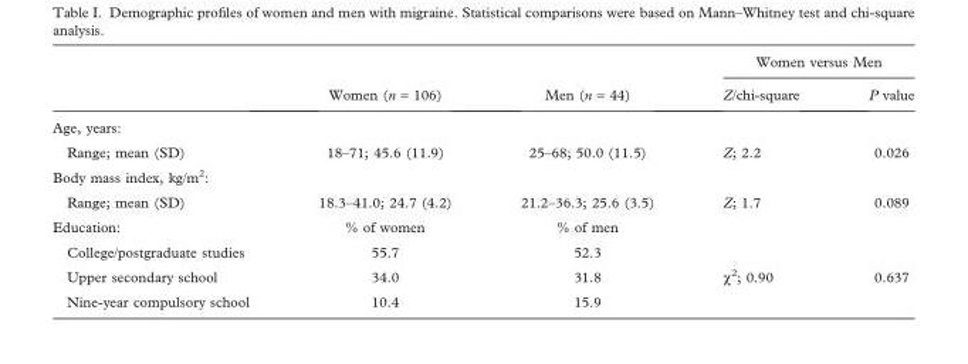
<table><thead><tr><td rowspan="2"></td><td rowspan="2">Women (n = 106)</td><td rowspan="2">Men (n = 44)</td><td colspan="2">Women versus Men</td></tr><tr><td>Z/chi-square</td><td>P value</td></tr></thead><tbody><tr><td colspan="5">Age, years:</td></tr><tr><td>Range; mean (SD)</td><td>18–71; 45.6 (11.9)</td><td>25–68; 50.0 (11.5)</td><td>Z; 2.2</td><td>0.026</td></tr><tr><td colspan="5">Body mass index, kg/m<sup>2</sup>:</td></tr><tr><td>Range; mean (SD)</td><td>18.3–41.0; 24.7 (4.2)</td><td>21.2–36.3; 25.6 (3.5)</td><td>Z; 1.7</td><td>0.089</td></tr><tr><td>Education:</td><td>% of women</td><td>% of men</td><td></td><td></td></tr><tr><td>College/postgraduate studies</td><td>55.7</td><td>52.3</td><td></td><td></td></tr><tr><td>Upper secondary school</td><td>34.0</td><td>31.8</td><td>χ<sup>2</sup>; 0.90</td><td>0.637</td></tr><tr><td>Nine-year compulsory school</td><td>10.4</td><td>15.9</td><td></td><td></td></tr></tbody></table>